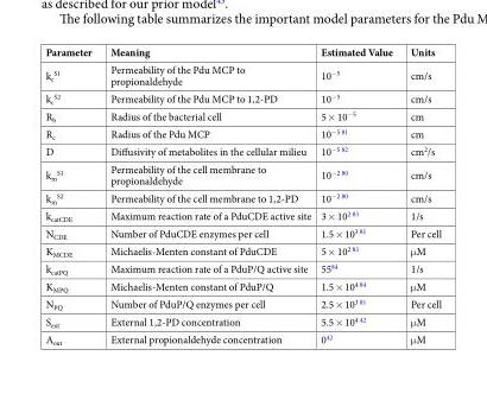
<table><tbody><tr><td>Parameter</td><td>Meaning</td><td>Estimated Value</td><td>Units</td></tr><tr><td>k<sub>c</sub> <sup>S1</sup></td><td>Permeability of the Pdu MCP to propionaldehyde</td><td>10<sup>−5</sup></td><td>cm/s</td></tr><tr><td>k<sub>c</sub> <sup>S2</sup></td><td>Permeability of the Pdu MCP to 1,2-PD</td><td>10<sup>−5</sup></td><td>cm/s</td></tr><tr><td>R<sub>b</sub></td><td>Radius of the bacterial cell</td><td>5 × 10<sup>−5</sup></td><td>cm</td></tr><tr><td>R<sub>c</sub></td><td>Radius of the Pdu MCP</td><td>10<sup>−5 81</sup></td><td>cm</td></tr><tr><td>D</td><td>Diffusivity of metabolites in the cellular milieu</td><td>10<sup>−5 82</sup></td><td>cm<sup>2</sup>/s</td></tr><tr><td>k<sub>m</sub> <sup>S1</sup></td><td>Permeability of the cell membrane to propionaldehyde</td><td>10<sup>−2 80</sup></td><td>cm/s</td></tr><tr><td>k<sub>m</sub> <sup>S2</sup></td><td>Permeability of the cell membrane to 1,2-PD</td><td>10<sup>−2 80</sup></td><td>cm/s</td></tr><tr><td>k<sub>catCDE</sub></td><td>Maximum reaction rate of a PduCDE active site</td><td>3 × 10<sup>2 83</sup></td><td>1/s</td></tr><tr><td>N<sub>CDE</sub></td><td>Number of PduCDE enzymes per cell</td><td>1.5 × 10<sup>3 81</sup></td><td>Per cell</td></tr><tr><td>K<sub>MCDE</sub></td><td>Michaelis-Menten constant of PduCDE</td><td>5 × 10<sup>2 83</sup></td><td>μM</td></tr><tr><td>k<sub>catPQ</sub></td><td>Maximum reaction rate of a PduP/Q active site</td><td>55<sup>84</sup></td><td>1/s</td></tr><tr><td>K<sub>MPQ</sub></td><td>Michaelis-Menten constant of PduP/Q</td><td>1.5 × 10<sup>4 84</sup></td><td>μM</td></tr><tr><td>N<sub>PQ</sub></td><td>Number of PduP/Q enzymes per cell</td><td>2.5 × 10<sup>3 81</sup></td><td>Per cell</td></tr><tr><td>S<sub>ext</sub></td><td>External 1,2-PD concentration</td><td>5.5 × 10<sup>4 42</sup></td><td>μM</td></tr><tr><td>A<sub>out</sub></td><td>External propionaldehyde concentration</td><td>0<sup>42</sup></td><td>μM</td></tr></tbody></table>